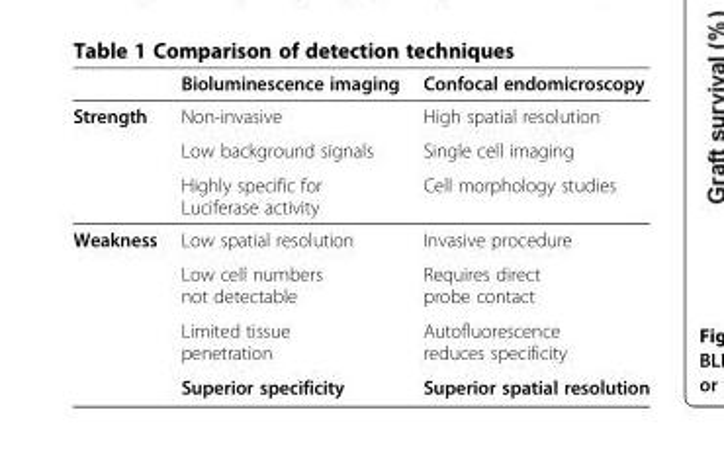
<table><thead><tr><td></td><td>Bioluminescence imaging</td><td>Confocal endomicroscopy</td></tr></thead><tbody><tr><td rowspan="3">Strength</td><td>Non-invasive</td><td>High spatial resolution</td></tr><tr><td>Low background signals</td><td>Single cell imaging</td></tr><tr><td>Highly specific for Luciferase activity</td><td>Cell morphology studies</td></tr><tr><td rowspan="4">Weakness</td><td>Low spatial resolution</td><td>Invasive procedure</td></tr><tr><td>Low cell numbers not detectable</td><td>Requires direct probe contact</td></tr><tr><td>Limited tissue penetration</td><td>Autofluorescence reduces specificity</td></tr><tr><td>Superior specificity</td><td>Superior spatial resolution</td></tr></tbody></table>